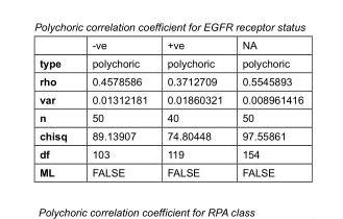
<table><thead><tr><td></td><td>-ve</td><td>+ve</td><td>NA</td></tr></thead><tbody><tr><td>type</td><td>polychoric</td><td>polychoric</td><td>polychoric</td></tr><tr><td>rho</td><td>0.4578586</td><td>0.3712709</td><td>0.5545893</td></tr><tr><td>var</td><td>0.01312181</td><td>0.01860321</td><td>0.008961416</td></tr><tr><td>n</td><td>50</td><td>40</td><td>50</td></tr><tr><td>chisq</td><td>89.13907</td><td>74.80448</td><td>97.55861</td></tr><tr><td>df</td><td>103</td><td>119</td><td>154</td></tr><tr><td>ML</td><td>FALSE</td><td>FALSE</td><td>FALSE</td></tr></tbody></table>